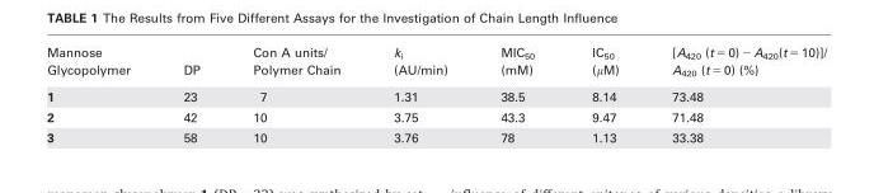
<table><thead><tr><td>Mannose Glycopolymer</td><td>DP</td><td>Con A units/ Polymer Chain</td><td>k<sub>i</sub> (AU/min)</td><td>MIC<sub>50</sub> (mM)</td><td>IC<sub>50</sub> (μM)</td><td>[A<sub>420</sub> (t = 0) − A<sub>420</sub>(t = 10)]/ A<sub>420</sub> (t = 0) (%)</td></tr></thead><tbody><tr><td>1</td><td>23</td><td>7</td><td>1.31</td><td>38.5</td><td>8.14</td><td>73.48</td></tr><tr><td>2</td><td>42</td><td>10</td><td>3.75</td><td>43.3</td><td>9.47</td><td>71.48</td></tr><tr><td>3</td><td>58</td><td>10</td><td>3.76</td><td>78</td><td>1.13</td><td>33.38</td></tr></tbody></table>